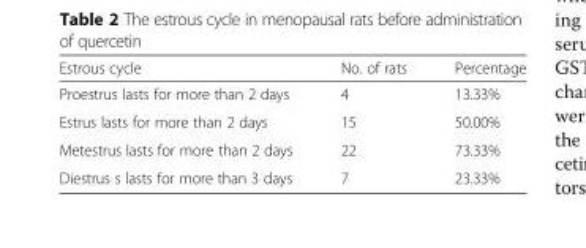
<table><thead><tr><td>Estrous cycle</td><td>No. of rats</td><td>Percentage</td></tr></thead><tbody><tr><td>Proestrus lasts for more than 2 days</td><td>4</td><td>13.33%</td></tr><tr><td>Estrus lasts for more than 2 days</td><td>15</td><td>50.00%</td></tr><tr><td>Metestrus lasts for more than 2 days</td><td>22</td><td>73.33%</td></tr><tr><td>Diestrus s lasts for more than 3 days</td><td>7</td><td>23.33%</td></tr></tbody></table>